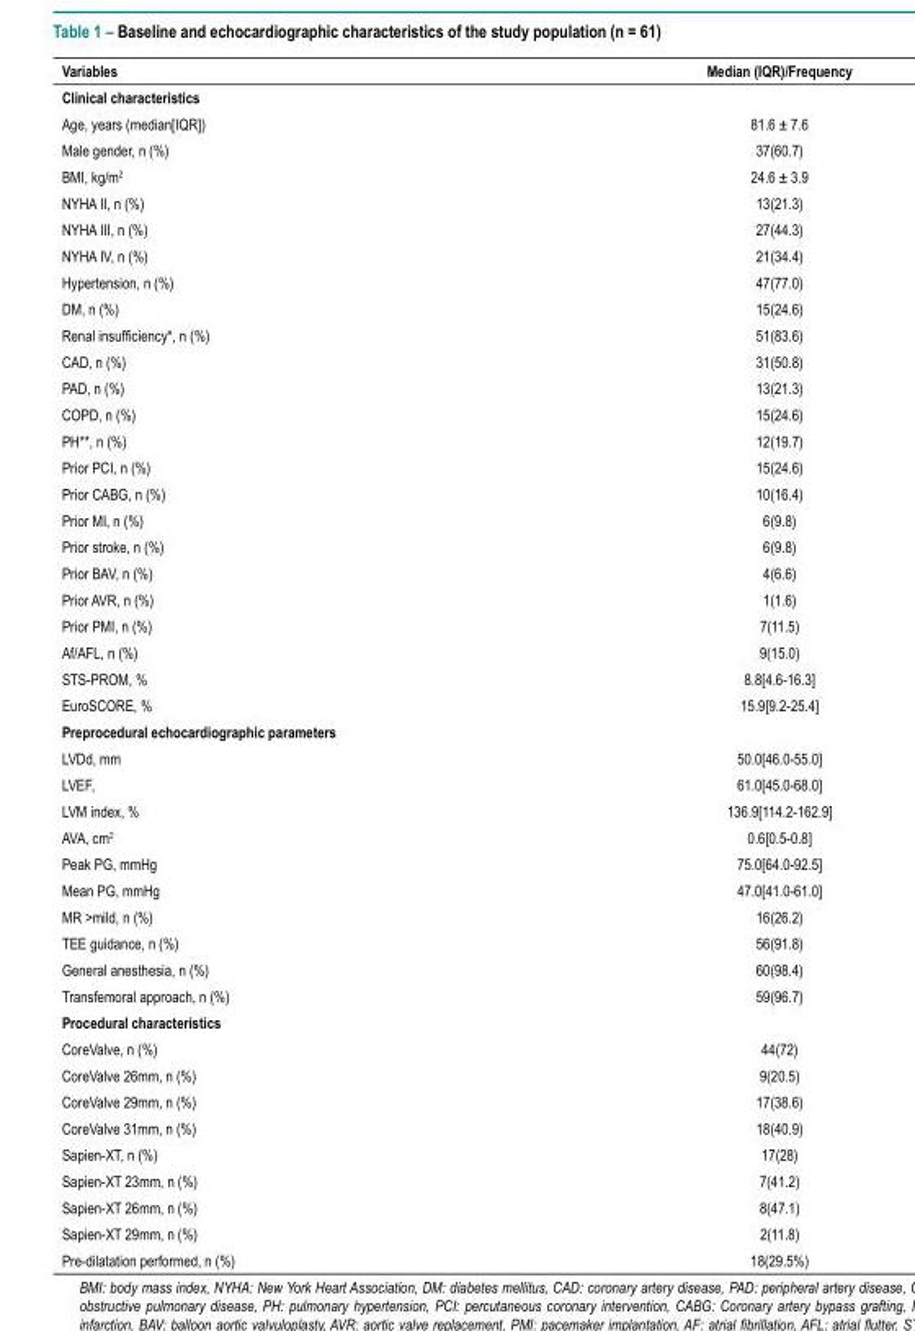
<table><thead><tr><td>Variables</td><td>Median (IQR)/Frequency</td></tr></thead><tbody><tr><td colspan="2">Clinical characteristics</td></tr><tr><td>Age, years (median[IQR])</td><td>81.6 ± 7.6</td></tr><tr><td>Male gender, n (%)</td><td>37(60.7)</td></tr><tr><td>BMI, kg/m<sup>2</sup></td><td>24.6 ± 3.9</td></tr><tr><td>NYHA II, n (%)</td><td>13(21.3)</td></tr><tr><td>NYHA III, n (%)</td><td>27(44.3)</td></tr><tr><td>NYHA IV, n (%)</td><td>21(34.4)</td></tr><tr><td>Hypertension, n (%)</td><td>47(77.0)</td></tr><tr><td>DM, n (%)</td><td>15(24.6)</td></tr><tr><td>Renal insufficiency*, n (%)</td><td>51(83.6)</td></tr><tr><td>CAD, n (%)</td><td>31(50.8)</td></tr><tr><td>PAD, n (%)</td><td>13(21.3)</td></tr><tr><td>COPD, n (%)</td><td>15(24.6)</td></tr><tr><td>PH**, n (%)</td><td>12(19.7)</td></tr><tr><td>Prior PCI, n (%)</td><td>15(24.6)</td></tr><tr><td>Prior CABG, n (%)</td><td>10(16.4)</td></tr><tr><td>Prior MI, n (%)</td><td>6(9.8)</td></tr><tr><td>Prior stroke, n (%)</td><td>6(9.8)</td></tr><tr><td>Prior BAV, n (%)</td><td>4(6.6)</td></tr><tr><td>Prior AVR, n (%)</td><td>1(1.6)</td></tr><tr><td>Prior PMI, n (%)</td><td>7(11.5)</td></tr><tr><td>Af/AFL, n (%)</td><td>9(15.0)</td></tr><tr><td>STS-PROM, %</td><td>8.8[4.6-16.3]</td></tr><tr><td>EuroSCORE, %</td><td>15.9[9.2-25.4]</td></tr><tr><td colspan="2">Preprocedural echocardiographic parameters</td></tr><tr><td>LVDd, mm</td><td>50.0[46.0-55.0]</td></tr><tr><td>LVEF,</td><td>61.0[45.0-68.0]</td></tr><tr><td>LVM index, %</td><td>136.9[114.2-162.9]</td></tr><tr><td>AVA, cm<sup>2</sup></td><td>0.6[0.5-0.8]</td></tr><tr><td>Peak PG, mmHg</td><td>75.0[64.0-92.5]</td></tr><tr><td>Mean PG, mmHg</td><td>47.0[41.0-61.0]</td></tr><tr><td>MR &gt;mild, n (%)</td><td>16(26.2)</td></tr><tr><td>TEE guidance, n (%)</td><td>56(91.8)</td></tr><tr><td>General anesthesia, n (%)</td><td>60(98.4)</td></tr><tr><td>Transfemoral approach, n (%)</td><td>59(96.7)</td></tr><tr><td colspan="2">Procedural characteristics</td></tr><tr><td>CoreValve, n (%)</td><td>44(72)</td></tr><tr><td>CoreValve 26mm, n (%)</td><td>9(20.5)</td></tr><tr><td>CoreValve 29mm, n (%)</td><td>17(38.6)</td></tr><tr><td>CoreValve 31mm, n (%)</td><td>18(40.9)</td></tr><tr><td>Sapien-XT, n (%)</td><td>17(28)</td></tr><tr><td>Sapien-XT 23mm, n (%)</td><td>7(41.2)</td></tr><tr><td>Sapien-XT 26mm, n (%)</td><td>8(47.1)</td></tr><tr><td>Sapien-XT 29mm, n (%)</td><td>2(11.8)</td></tr><tr><td>Pre-dilatation performed, n (%)</td><td>18(29.5%)</td></tr></tbody></table>